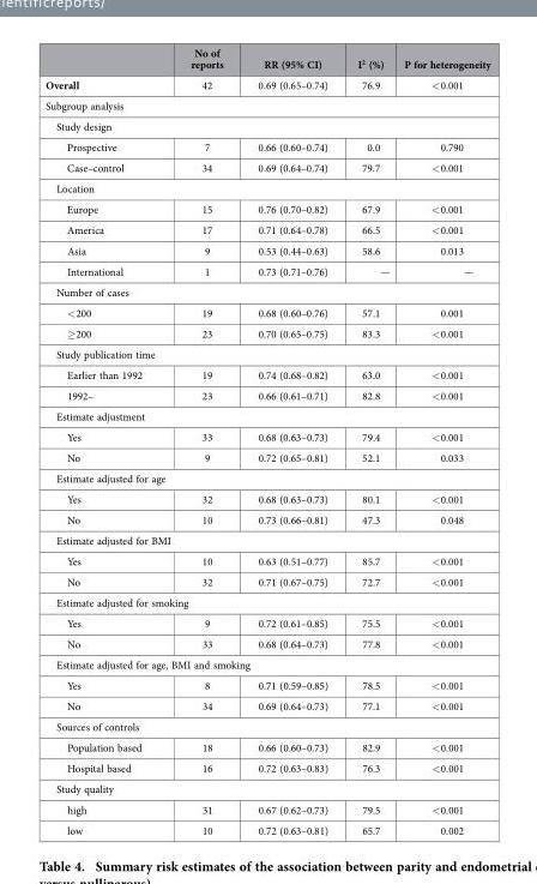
<table><thead><tr><td></td><td>No of reports</td><td>RR (95% CI)</td><td>I<sup>2</sup> (%)</td><td>P for heterogeneity</td></tr></thead><tbody><tr><td>Overall</td><td>42</td><td>0.69 (0.65–0.74)</td><td>76.9</td><td>&lt; 0.001</td></tr><tr><td colspan="5">Subgroup analysis</td></tr><tr><td colspan="5">Study design</td></tr><tr><td>Prospective</td><td>7</td><td>0.66 (0.60–0.74)</td><td>0.0</td><td>0.790</td></tr><tr><td>Case–control</td><td>34</td><td>0.69 (0.64–0.74)</td><td>79.7</td><td>&lt; 0.001</td></tr><tr><td colspan="5">Location</td></tr><tr><td>Europe</td><td>15</td><td>0.76 (0.70–0.82)</td><td>67.9</td><td>&lt; 0.001</td></tr><tr><td>America</td><td>17</td><td>0.71 (0.64–0.78)</td><td>66.5</td><td>&lt; 0.001</td></tr><tr><td>Asia</td><td>9</td><td>0.53 (0.44–0.63)</td><td>58.6</td><td>0.013</td></tr><tr><td>International</td><td>1</td><td>0.73 (0.71–0.76)</td><td>—</td><td>—</td></tr><tr><td colspan="5">Number of cases</td></tr><tr><td>&lt; 200</td><td>19</td><td>0.68 (0.60–0.76)</td><td>57.1</td><td>0.001</td></tr><tr><td>≥ 200</td><td>23</td><td>0.70 (0.65–0.75)</td><td>83.3</td><td>&lt; 0.001</td></tr><tr><td colspan="5">Study publication time</td></tr><tr><td>Earlier than 1992</td><td>19</td><td>0.74 (0.68–0.82)</td><td>63.0</td><td>&lt; 0.001</td></tr><tr><td>1992–</td><td>23</td><td>0.66 (0.61–0.71)</td><td>82.8</td><td>&lt; 0.001</td></tr><tr><td colspan="5">Estimate adjustment</td></tr><tr><td>Yes</td><td>33</td><td>0.68 (0.63–0.73)</td><td>79.4</td><td>&lt; 0.001</td></tr><tr><td>No</td><td>9</td><td>0.72 (0.65–0.81)</td><td>52.1</td><td>0.033</td></tr><tr><td colspan="5">Estimate adjusted for age</td></tr><tr><td>Yes</td><td>32</td><td>0.68 (0.63–0.73)</td><td>80.1</td><td>&lt; 0.001</td></tr><tr><td>No</td><td>10</td><td>0.73 (0.66–0.81)</td><td>47.3</td><td>0.048</td></tr><tr><td colspan="5">Estimate adjusted for BMI</td></tr><tr><td>Yes</td><td>10</td><td>0.63 (0.51–0.77)</td><td>85.7</td><td>&lt; 0.001</td></tr><tr><td>No</td><td>32</td><td>0.71 (0.67–0.75)</td><td>72.7</td><td>&lt; 0.001</td></tr><tr><td colspan="5">Estimate adjusted for smoking</td></tr><tr><td>Yes</td><td>9</td><td>0.72 (0.61–0.85)</td><td>75.5</td><td>&lt; 0.001</td></tr><tr><td>No</td><td>33</td><td>0.68 (0.64–0.73)</td><td>77.8</td><td>&lt; 0.001</td></tr><tr><td colspan="5">Estimate adjusted for age, BMI and smoking</td></tr><tr><td>Yes</td><td>8</td><td>0.71 (0.59–0.85)</td><td>78.5</td><td>&lt; 0.001</td></tr><tr><td>No</td><td>34</td><td>0.69 (0.64–0.73)</td><td>77.1</td><td>&lt; 0.001</td></tr><tr><td colspan="5">Sources of controls</td></tr><tr><td>Population based</td><td>18</td><td>0.66 (0.60–0.73)</td><td>82.9</td><td>&lt; 0.001</td></tr><tr><td>Hospital based</td><td>16</td><td>0.72 (0.63–0.83)</td><td>76.3</td><td>&lt; 0.001</td></tr><tr><td colspan="5">Study quality</td></tr><tr><td>high</td><td>31</td><td>0.67 (0.62–0.73)</td><td>79.5</td><td>&lt; 0.001</td></tr><tr><td>low</td><td>10</td><td>0.72 (0.63–0.81)</td><td>65.7</td><td>0.002</td></tr></tbody></table>